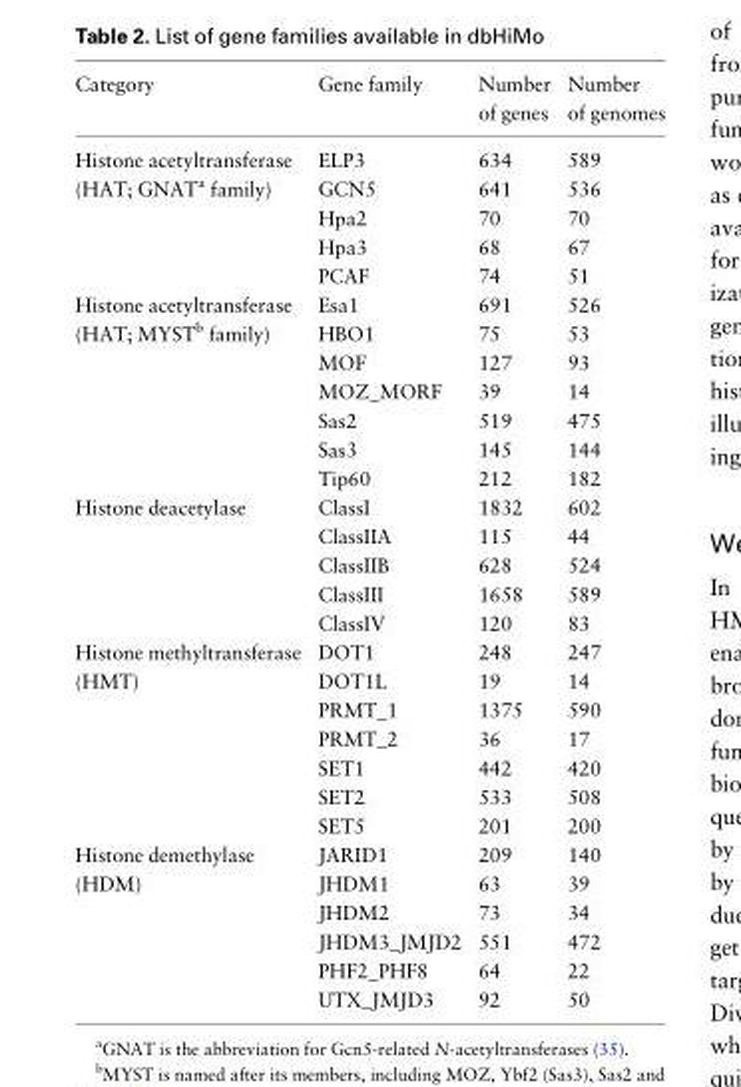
<table><thead><tr><td>Category</td><td>Gene family</td><td>Number of genes</td><td>Number of genomes</td></tr></thead><tbody><tr><td>Histone acetyltransferase</td><td>ELP3</td><td>634</td><td>589</td></tr><tr><td rowspan="4">(HAT; GNAT<sup>a</sup> family)</td><td>GCN5</td><td>641</td><td>536</td></tr><tr><td>Hpa2</td><td>70</td><td>70</td></tr><tr><td>Hpa3</td><td>68</td><td>67</td></tr><tr><td>PCAF</td><td>74</td><td>51</td></tr><tr><td>Histone acetyltransferase</td><td>Esa1</td><td>691</td><td>526</td></tr><tr><td rowspan="6">(HAT; MYST<sup>b</sup> family)</td><td>HBO1</td><td>75</td><td>53</td></tr><tr><td>MOF</td><td>127</td><td>93</td></tr><tr><td>MOZ_MORF</td><td>39</td><td>14</td></tr><tr><td>Sas2</td><td>519</td><td>475</td></tr><tr><td>Sas3</td><td>145</td><td>144</td></tr><tr><td>Tip60</td><td>212</td><td>182</td></tr><tr><td rowspan="5">Histone deacetylase</td><td>ClassI</td><td>1832</td><td>602</td></tr><tr><td>ClassIIA</td><td>115</td><td>44</td></tr><tr><td>ClassIIB</td><td>628</td><td>524</td></tr><tr><td>ClassIII</td><td>1658</td><td>589</td></tr><tr><td>ClassIV</td><td>120</td><td>83</td></tr><tr><td>Histone methyltransferase</td><td>DOT1</td><td>248</td><td>247</td></tr><tr><td rowspan="6">(HMT)</td><td>DOT1L</td><td>19</td><td>14</td></tr><tr><td>PRMT_1</td><td>1375</td><td>590</td></tr><tr><td>PRMT_2</td><td>36</td><td>17</td></tr><tr><td>SET1</td><td>442</td><td>420</td></tr><tr><td>SET2</td><td>533</td><td>508</td></tr><tr><td>SET5</td><td>201</td><td>200</td></tr><tr><td>Histone demethylase</td><td>JARID1</td><td>209</td><td>140</td></tr><tr><td rowspan="5">(HDM)</td><td>JHDM1</td><td>63</td><td>39</td></tr><tr><td>JHDM2</td><td>73</td><td>34</td></tr><tr><td>JHDM3_JMJD2</td><td>551</td><td>472</td></tr><tr><td>PHF2_PHF8</td><td>64</td><td>22</td></tr><tr><td>UTX_JMJD3</td><td>92</td><td>50</td></tr></tbody></table>